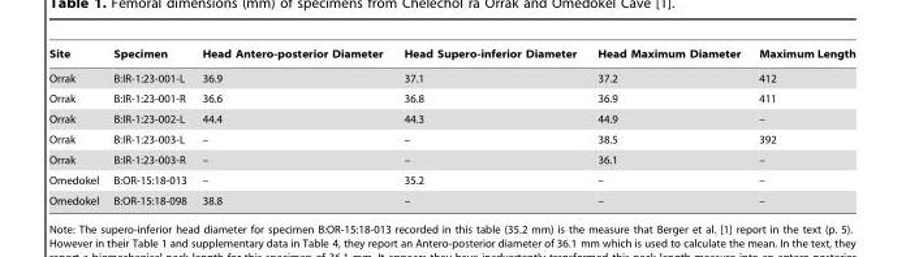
<table><thead><tr><td>Site</td><td>Specimen</td><td>Head Antero-posterior Diameter</td><td>Head Supero-inferior Diameter</td><td>Head Maximum Diameter</td><td>Maximum Length</td></tr></thead><tbody><tr><td>Orrak</td><td>B:IR-1:23-001-L</td><td>36.9</td><td>37.1</td><td>37.2</td><td>412</td></tr><tr><td>Orrak</td><td>B:IR-1:23-001-R</td><td>36.6</td><td>36.8</td><td>36.9</td><td>411</td></tr><tr><td>Orrak</td><td>B:IR-1:23-002-L</td><td>44.4</td><td>44.3</td><td>44.9</td><td>–</td></tr><tr><td>Orrak</td><td>B:IR-1:23-003-L</td><td>–</td><td>–</td><td>38.5</td><td>392</td></tr><tr><td>Orrak</td><td>B:IR-1:23-003-R</td><td>–</td><td>–</td><td>36.1</td><td>–</td></tr><tr><td>Omedokel</td><td>B:OR-15:18-013</td><td>–</td><td>35.2</td><td>–</td><td>–</td></tr><tr><td>Omedokel</td><td>B:OR-15:18-098</td><td>38.8</td><td>–</td><td>–</td><td>–</td></tr></tbody></table>